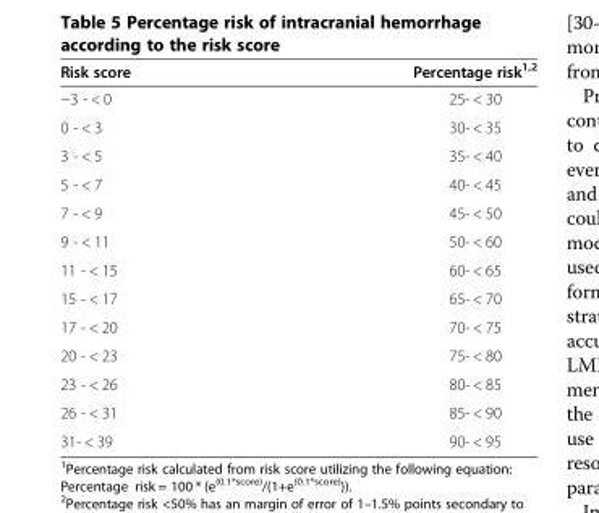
<table><thead><tr><td>Risk score</td><td>Percentage risk<sup>1,2</sup></td></tr></thead><tbody><tr><td>−3 - &lt; 0</td><td>25- &lt; 30</td></tr><tr><td>0 - &lt; 3</td><td>30- &lt; 35</td></tr><tr><td>3 - &lt; 5</td><td>35- &lt; 40</td></tr><tr><td>5 - &lt; 7</td><td>40- &lt; 45</td></tr><tr><td>7 - &lt; 9</td><td>45- &lt; 50</td></tr><tr><td>9 - &lt; 11</td><td>50- &lt; 60</td></tr><tr><td>11 - &lt; 15</td><td>60- &lt; 65</td></tr><tr><td>15 - &lt; 17</td><td>65- &lt; 70</td></tr><tr><td>17 - &lt; 20</td><td>70- &lt; 75</td></tr><tr><td>20 - &lt; 23</td><td>75- &lt; 80</td></tr><tr><td>23 - &lt; 26</td><td>80- &lt; 85</td></tr><tr><td>26 - &lt; 31</td><td>85- &lt; 90</td></tr><tr><td>31- &lt; 39</td><td>90- &lt; 95</td></tr></tbody></table>